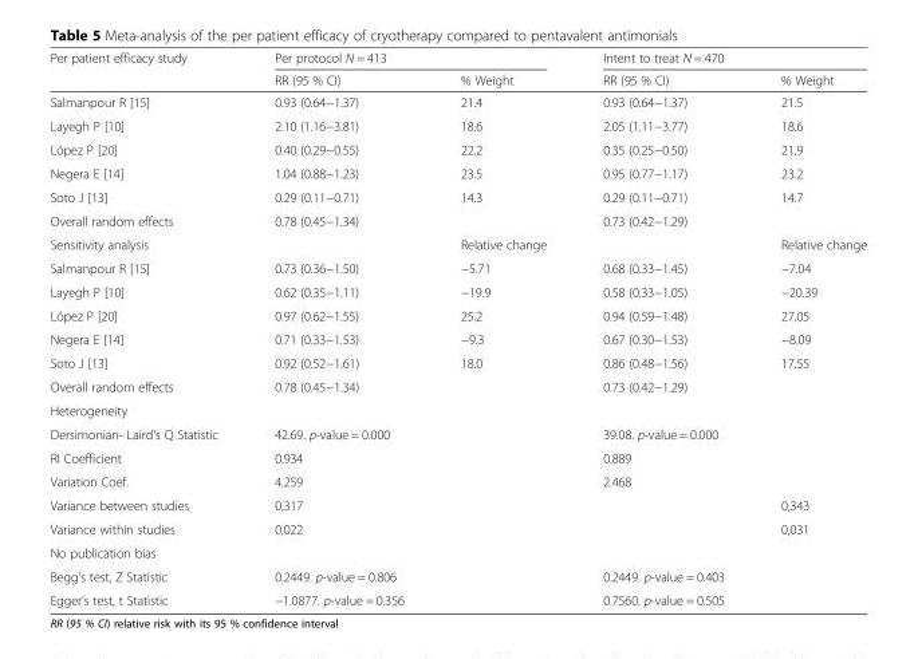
<table><thead><tr><td rowspan="2">Per patient efficacy study</td><td colspan="2">Per protocol N = 413</td><td colspan="2">Intent to treat N = 470</td></tr><tr><td>RR (95 % CI)</td><td>% Weight</td><td>RR (95 % CI)</td><td>% Weight</td></tr></thead><tbody><tr><td>Salmanpour R [15]</td><td>0.93 (0.64−1.37)</td><td>21.4</td><td>0.93 (0.64−1.37)</td><td>21.5</td></tr><tr><td>Layegh P [10]</td><td>2.10 (1.16−3.81)</td><td>18.6</td><td>2.05 (1.11−3.77)</td><td>18.6</td></tr><tr><td>López P [20]</td><td>0.40 (0.29−0.55)</td><td>22.2</td><td>0.35 (0.25−0.50)</td><td>21.9</td></tr><tr><td>Negera E [14]</td><td>1.04 (0.88−1.23)</td><td>23.5</td><td>0.95 (0.77−1.17)</td><td>23.2</td></tr><tr><td>Soto J [13]</td><td>0.29 (0.11−0.71)</td><td>14.3</td><td>0.29 (0.11−0.71)</td><td>14.7</td></tr><tr><td>Overall random effects</td><td>0.78 (0.45−1.34)</td><td></td><td>0.73 (0.42−1.29)</td><td></td></tr><tr><td>Sensitivity analysis</td><td></td><td>Relative change</td><td></td><td>Relative change</td></tr><tr><td>Salmanpour R [15]</td><td>0.73 (0.36−1.50)</td><td>−5.71</td><td>0.68 (0.33−1.45)</td><td>−7.04</td></tr><tr><td>Layegh P [10]</td><td>0.62 (0.35−1.11)</td><td>−19.9</td><td>0.58 (0.33−1.05)</td><td>−20.39</td></tr><tr><td>López P [20]</td><td>0.97 (0.62−1.55)</td><td>25.2</td><td>0.94 (0.59−1.48)</td><td>27.05</td></tr><tr><td>Negera E [14]</td><td>0.71 (0.33−1.53)</td><td>−9.3</td><td>0.67 (0.30−1.53)</td><td>−8.09</td></tr><tr><td>Soto J [13]</td><td>0.92 (0.52−1.61)</td><td>18.0</td><td>0.86 (0.48−1.56)</td><td>17.55</td></tr><tr><td>Overall random effects</td><td>0.78 (0.45−1.34)</td><td></td><td>0.73 (0.42−1.29)</td><td></td></tr><tr><td colspan="5">Heterogeneity</td></tr><tr><td>Dersimonian- Laird&#x27;s Q Statistic</td><td>42.69. p-value = 0.000</td><td></td><td>39.08. p-value = 0.000</td><td></td></tr><tr><td>RI Coefficient</td><td>0.934</td><td></td><td>0.889</td><td></td></tr><tr><td>Variation Coef.</td><td>4.259</td><td></td><td>2.468</td><td></td></tr><tr><td>Variance between studies</td><td>0,317</td><td></td><td></td><td>0,343</td></tr><tr><td>Variance within studies</td><td>0,022</td><td></td><td></td><td>0,031</td></tr><tr><td colspan="5">No publication bias</td></tr><tr><td>Begg’s test, Z Statistic</td><td>0.2449. p-value = 0.806</td><td></td><td>0.2449. p-value = 0.403</td><td></td></tr><tr><td>Egger’s test, t Statistic</td><td>−1.0877. p-value = 0.356</td><td></td><td>0.7560. p-value = 0.505</td><td></td></tr></tbody></table>